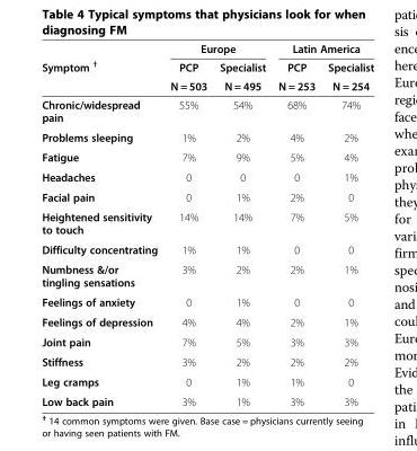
<table><thead><tr><td rowspan="3">Symptom <sup>†</sup></td><td colspan="2">Europe</td><td colspan="2">Latin America</td></tr><tr><td rowspan="2">PCP N = 503</td><td rowspan="2">Specialist N = 495</td><td rowspan="2">PCP N = 253</td><td rowspan="2">Specialist N = 254</td></tr><tr></tr></thead><tbody><tr><td>Chronic/widespread pain</td><td>55%</td><td>54%</td><td>68%</td><td>74%</td></tr><tr><td>Problems sleeping</td><td>1%</td><td>2%</td><td>4%</td><td>2%</td></tr><tr><td>Fatigue</td><td>7%</td><td>9%</td><td>5%</td><td>4%</td></tr><tr><td>Headaches</td><td>0</td><td>0</td><td>0</td><td>1%</td></tr><tr><td>Facial pain</td><td>0</td><td>1%</td><td>2%</td><td>0</td></tr><tr><td>Heightened sensitivity to touch</td><td>14%</td><td>14%</td><td>7%</td><td>5%</td></tr><tr><td>Difficulty concentrating</td><td>1%</td><td>1%</td><td>0</td><td>0</td></tr><tr><td>Numbness &amp;/or tingling sensations</td><td>3%</td><td>2%</td><td>2%</td><td>1%</td></tr><tr><td>Feelings of anxiety</td><td>0</td><td>1%</td><td>0</td><td>0</td></tr><tr><td>Feelings of depression</td><td>4%</td><td>4%</td><td>2%</td><td>1%</td></tr><tr><td>Joint pain</td><td>7%</td><td>5%</td><td>3%</td><td>3%</td></tr><tr><td>Stiffness</td><td>3%</td><td>2%</td><td>2%</td><td>2%</td></tr><tr><td>Leg cramps</td><td>0</td><td>1%</td><td>1%</td><td>0</td></tr><tr><td>Low back pain</td><td>3%</td><td>1%</td><td>3%</td><td>3%</td></tr></tbody></table>